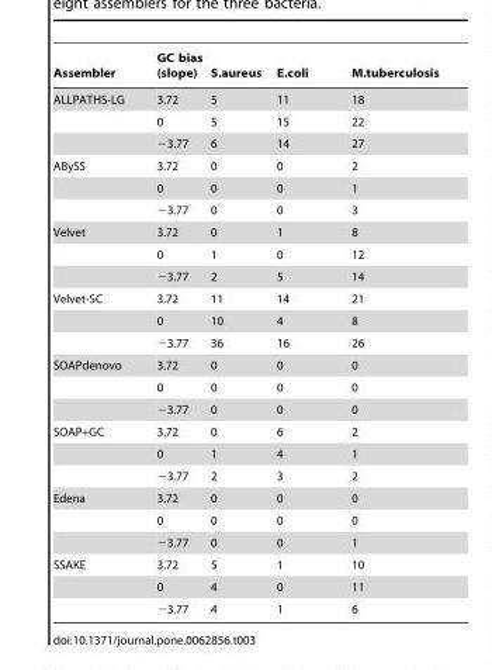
<table><thead><tr><td>Assembler</td><td>GC bias (slope)</td><td>S.aureus</td><td>E.coli</td><td>M.tuberculosis</td></tr></thead><tbody><tr><td rowspan="3">ALLPATHS-LG</td><td>3.72</td><td>5</td><td>11</td><td>18</td></tr><tr><td>0</td><td>5</td><td>15</td><td>22</td></tr><tr><td>−3.77</td><td>6</td><td>14</td><td>27</td></tr><tr><td rowspan="3">ABySS</td><td>3.72</td><td>0</td><td>0</td><td>2</td></tr><tr><td>0</td><td>0</td><td>0</td><td>1</td></tr><tr><td>−3.77</td><td>0</td><td>0</td><td>3</td></tr><tr><td rowspan="3">Velvet</td><td>3.72</td><td>0</td><td>1</td><td>8</td></tr><tr><td>0</td><td>1</td><td>0</td><td>12</td></tr><tr><td>−3.77</td><td>2</td><td>5</td><td>14</td></tr><tr><td rowspan="3">Velvet-SC</td><td>3.72</td><td>11</td><td>14</td><td>21</td></tr><tr><td>0</td><td>10</td><td>4</td><td>8</td></tr><tr><td>−3.77</td><td>36</td><td>16</td><td>26</td></tr><tr><td rowspan="3">SOAPdenovo</td><td>3.72</td><td>0</td><td>0</td><td>0</td></tr><tr><td>0</td><td>0</td><td>0</td><td>0</td></tr><tr><td>−3.77</td><td>0</td><td>0</td><td>0</td></tr><tr><td rowspan="3">SOAP+GC</td><td>3.72</td><td>0</td><td>6</td><td>2</td></tr><tr><td>0</td><td>1</td><td>4</td><td>1</td></tr><tr><td>−3.77</td><td>2</td><td>3</td><td>2</td></tr><tr><td rowspan="3">Edena</td><td>3.72</td><td>0</td><td>0</td><td>0</td></tr><tr><td>0</td><td>0</td><td>0</td><td>0</td></tr><tr><td>−3.77</td><td>0</td><td>0</td><td>1</td></tr><tr><td rowspan="3">SSAKE</td><td>3.72</td><td>5</td><td>1</td><td>10</td></tr><tr><td>0</td><td>4</td><td>0</td><td>11</td></tr><tr><td>−3.77</td><td>4</td><td>1</td><td>6</td></tr></tbody></table>